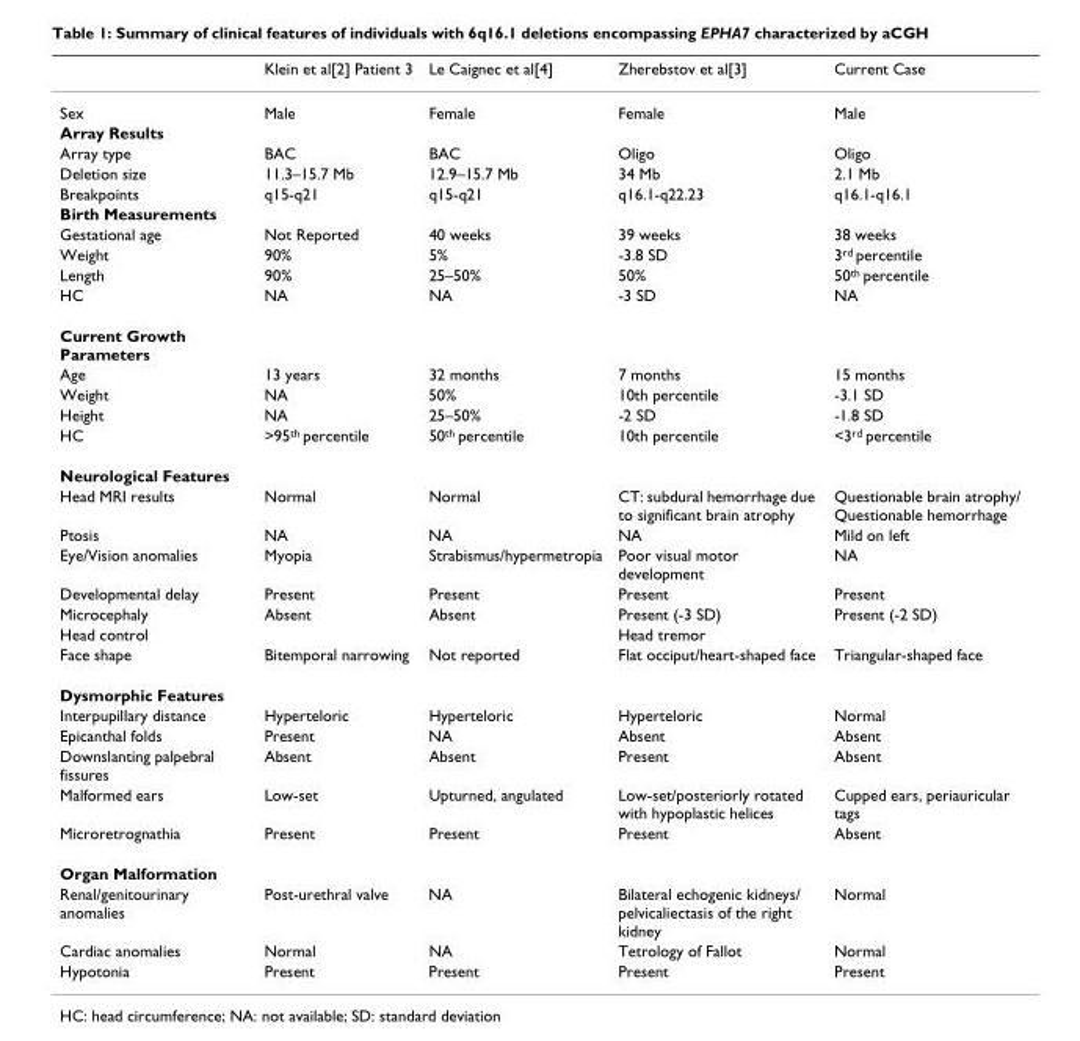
<table><thead><tr><td></td><td>Klein et al[2] Patient 3</td><td>Le Caignec et al[4]</td><td>Zherebstov et al[3]</td><td>Current Case</td></tr></thead><tbody><tr><td>Sex</td><td>Male</td><td>Female</td><td>Female</td><td>Male</td></tr><tr><td colspan="5">Array Results</td></tr><tr><td>Array type</td><td>BAC</td><td>BAC</td><td>Oligo</td><td>Oligo</td></tr><tr><td>Deletion size</td><td>11.3–15.7 Mb</td><td>12.9–15.7 Mb</td><td>34 Mb</td><td>2.1 Mb</td></tr><tr><td>Breakpoints</td><td>q15-q21</td><td>q15-q21</td><td>q16.1-q22.23</td><td>q16.1-q16.1</td></tr><tr><td colspan="5">Birth Measurements</td></tr><tr><td>Gestational age</td><td>Not Reported</td><td>40 weeks</td><td>39 weeks</td><td>38 weeks</td></tr><tr><td>Weight</td><td>90%</td><td>5%</td><td>-3.8 SD</td><td>3<sup>rd</sup> percentile</td></tr><tr><td>Length</td><td>90%</td><td>25–50%</td><td>50%</td><td>50<sup>th</sup> percentile</td></tr><tr><td>HC</td><td>NA</td><td>NA</td><td>-3 SD</td><td>NA</td></tr><tr><td colspan="5">Current Growth Parameters</td></tr><tr><td>Age</td><td>13 years</td><td>32 months</td><td>7 months</td><td>15 months</td></tr><tr><td>Weight</td><td>NA</td><td>50%</td><td>10th percentile</td><td>-3.1 SD</td></tr><tr><td>Height</td><td>NA</td><td>25–50%</td><td>-2 SD</td><td>-1.8 SD</td></tr><tr><td>HC</td><td>&gt;95<sup>th</sup> percentile</td><td>50<sup>th</sup> percentile</td><td>10th percentile</td><td>&lt;3<sup>rd</sup> percentile</td></tr><tr><td colspan="5">Neurological Features</td></tr><tr><td>Head MRI results</td><td>Normal</td><td>Normal</td><td>CT: subdural hemorrhage due to significant brain atrophy</td><td>Questionable brain atrophy/ Questionable hemorrhage</td></tr><tr><td>Ptosis</td><td>NA</td><td>NA</td><td>NA</td><td>Mild on left</td></tr><tr><td>Eye/Vision anomalies</td><td>Myopia</td><td>Strabismus/hypermetropia</td><td>Poor visual motor development</td><td>NA</td></tr><tr><td>Developmental delay</td><td>Present</td><td>Present</td><td>Present</td><td>Present</td></tr><tr><td>Microcephaly</td><td>Absent</td><td>Absent</td><td>Present (-3 SD)</td><td>Present (-2 SD)</td></tr><tr><td>Head control</td><td></td><td></td><td>Head tremor</td><td></td></tr><tr><td>Face shape</td><td>Bitemporal narrowing</td><td>Not reported</td><td>Flat occiput/heart-shaped face</td><td>Triangular-shaped face</td></tr><tr><td colspan="5">Dysmorphic Features</td></tr><tr><td>Interpupillary distance</td><td>Hyperteloric</td><td>Hyperteloric</td><td>Hyperteloric</td><td>Normal</td></tr><tr><td>Epicanthal folds</td><td>Present</td><td>NA</td><td>Absent</td><td>Absent</td></tr><tr><td>Downslanting palpebral fissures</td><td>Absent</td><td>Absent</td><td>Present</td><td>Absent</td></tr><tr><td>Malformed ears</td><td>Low-set</td><td>Upturned, angulated</td><td>Low-set/posteriorly rotated with hypoplastic helices</td><td>Cupped ears, periauricular tags</td></tr><tr><td>Microretrognathia</td><td>Present</td><td>Present</td><td>Present</td><td>Absent</td></tr><tr><td colspan="5">Organ Malformation</td></tr><tr><td>Renal/genitourinary anomalies</td><td>Post-urethral valve</td><td>NA</td><td>Bilateral echogenic kidneys/ pelvicaliectasis of the right kidney</td><td>Normal</td></tr><tr><td>Cardiac anomalies</td><td>Normal</td><td>NA</td><td>Tetrology of Fallot</td><td>Normal</td></tr><tr><td>Hypotonia</td><td>Present</td><td>Present</td><td>Present</td><td>Present</td></tr></tbody></table>